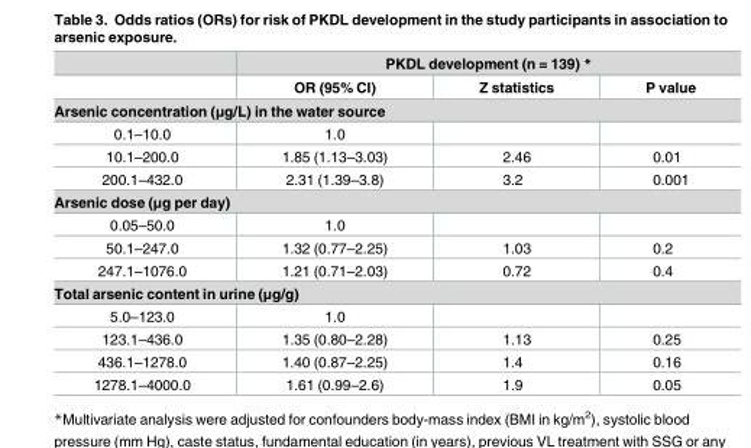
<table><thead><tr><td rowspan="2"></td><td colspan="3">PKDL development (n = 139) *</td></tr><tr><td>OR (95% CI)</td><td>Z statistics</td><td>P value</td></tr></thead><tbody><tr><td colspan="4">Arsenic concentration (μg/L) in the water source</td></tr><tr><td>0.1–10.0</td><td>1.0</td><td></td><td></td></tr><tr><td>10.1–200.0</td><td>1.85 (1.13–3.03)</td><td>2.46</td><td>0.01</td></tr><tr><td>200.1–432.0</td><td>2.31 (1.39–3.8)</td><td>3.2</td><td>0.001</td></tr><tr><td colspan="4">Arsenic dose (μg per day)</td></tr><tr><td>0.05–50.0</td><td>1.0</td><td></td><td></td></tr><tr><td>50.1–247.0</td><td>1.32 (0.77–2.25)</td><td>1.03</td><td>0.2</td></tr><tr><td>247.1–1076.0</td><td>1.21 (0.71–2.03)</td><td>0.72</td><td>0.4</td></tr><tr><td colspan="4">Total arsenic content in urine (μg/g)</td></tr><tr><td>5.0–123.0</td><td>1.0</td><td></td><td></td></tr><tr><td>123.1–436.0</td><td>1.35 (0.80–2.28)</td><td>1.13</td><td>0.25</td></tr><tr><td>436.1–1278.0</td><td>1.40 (0.87–2.25)</td><td>1.4</td><td>0.16</td></tr><tr><td>1278.1–4000.0</td><td>1.61 (0.99–2.6)</td><td>1.9</td><td>0.05</td></tr></tbody></table>